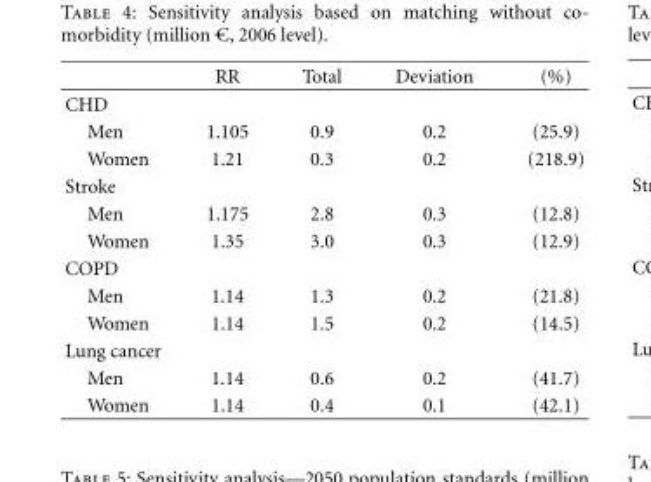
<table><thead><tr><td></td><td>RR</td><td>Total</td><td>Deviation</td><td>(%)</td></tr></thead><tbody><tr><td colspan="5">CHD</td></tr><tr><td>Men</td><td>1.105</td><td>0.9</td><td>0.2</td><td>(25.9)</td></tr><tr><td>Women</td><td>1.21</td><td>0.3</td><td>0.2</td><td>(218.9)</td></tr><tr><td colspan="5">Stroke</td></tr><tr><td>Men</td><td>1.175</td><td>2.8</td><td>0.3</td><td>(12.8)</td></tr><tr><td>Women</td><td>1.35</td><td>3.0</td><td>0.3</td><td>(12.9)</td></tr><tr><td colspan="5">COPD</td></tr><tr><td>Men</td><td>1.14</td><td>1.3</td><td>0.2</td><td>(21.8)</td></tr><tr><td>Women</td><td>1.14</td><td>1.5</td><td>0.2</td><td>(14.5)</td></tr><tr><td colspan="5">Lung cancer</td></tr><tr><td>Men</td><td>1.14</td><td>0.6</td><td>0.2</td><td>(41.7)</td></tr><tr><td>Women</td><td>1.14</td><td>0.4</td><td>0.1</td><td>(42.1)</td></tr></tbody></table>